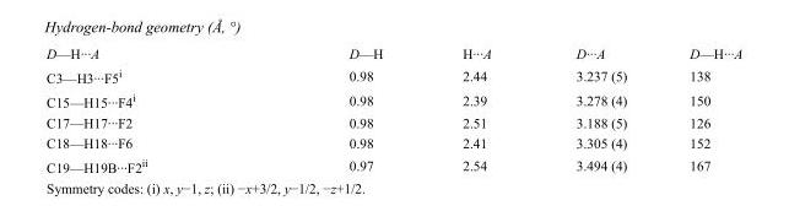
<table><tbody><tr><td>D—H···A</td><td>D—H</td><td>H···A</td><td>D···A</td><td>D—H···A</td></tr><tr><td>C3—H3···F5<sup>i</sup></td><td>0.98</td><td>2.44</td><td>3.237 (5)</td><td>138</td></tr><tr><td>C15—H15···F4<sup>i</sup></td><td>0.98</td><td>2.39</td><td>3.278 (4)</td><td>150</td></tr><tr><td>C17—H17···F2</td><td>0.98</td><td>2.51</td><td>3.188 (5)</td><td>126</td></tr><tr><td>C18—H18···F6</td><td>0.98</td><td>2.41</td><td>3.305 (4)</td><td>152</td></tr><tr><td>C19—H19B···F2<sup>ii</sup></td><td>0.97</td><td>2.54</td><td>3.494 (4)</td><td>167</td></tr></tbody></table>